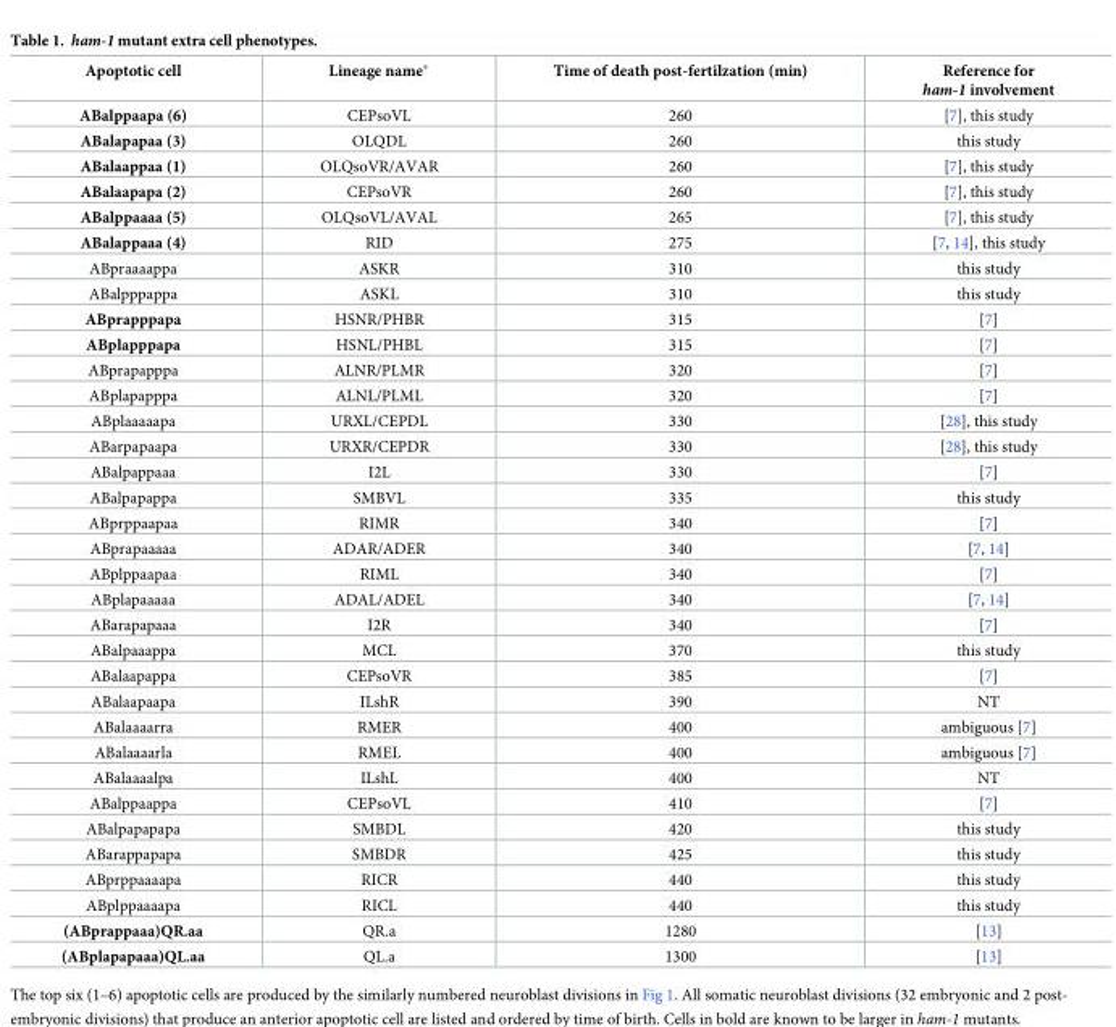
<table><thead><tr><td>Apoptotic cell</td><td>Lineage name*</td><td>Time of death post-fertilzation (min)</td><td>Reference for ham-1 involvement</td></tr></thead><tbody><tr><td>ABalppaapa (6)</td><td>CEPsoVL</td><td>260</td><td>[7], this study</td></tr><tr><td>ABalapapaa (3)</td><td>OLQDL</td><td>260</td><td>this study</td></tr><tr><td>ABalaappaa (1)</td><td>OLQsoVR/AVAR</td><td>260</td><td>[7], this study</td></tr><tr><td>ABalaapapa (2)</td><td>CEPsoVR</td><td>260</td><td>[7], this study</td></tr><tr><td>ABalppaaaa (5)</td><td>OLQsoVL/AVAL</td><td>265</td><td>[7], this study</td></tr><tr><td>ABalappaaa (4)</td><td>RID</td><td>275</td><td>[7, 14], this study</td></tr><tr><td>ABpraaaappa</td><td>ASKR</td><td>310</td><td>this study</td></tr><tr><td>ABalpppappa</td><td>ASKL</td><td>310</td><td>this study</td></tr><tr><td>ABprapppapa</td><td>HSNR/PHBR</td><td>315</td><td>[7]</td></tr><tr><td>ABplapppapa</td><td>HSNL/PHBL</td><td>315</td><td>[7]</td></tr><tr><td>ABprapapppa</td><td>ALNR/PLMR</td><td>320</td><td>[7]</td></tr><tr><td>ABplapapppa</td><td>ALNL/PLML</td><td>320</td><td>[7]</td></tr><tr><td>ABplaaaaapa</td><td>URXL/CEPDL</td><td>330</td><td>[28], this study</td></tr><tr><td>ABarpapaapa</td><td>URXR/CEPDR</td><td>330</td><td>[28], this study</td></tr><tr><td>ABalpappaaa</td><td>I2L</td><td>330</td><td>[7]</td></tr><tr><td>ABalpapappa</td><td>SMBVL</td><td>335</td><td>this study</td></tr><tr><td>ABprppaapaa</td><td>RIMR</td><td>340</td><td>[7]</td></tr><tr><td>ABprapaaaaa</td><td>ADAR/ADER</td><td>340</td><td>[7, 14]</td></tr><tr><td>ABplppaapaa</td><td>RIML</td><td>340</td><td>[7]</td></tr><tr><td>ABplapaaaaa</td><td>ADAL/ADEL</td><td>340</td><td>[7, 14]</td></tr><tr><td>ABarapapaaa</td><td>I2R</td><td>340</td><td>[7]</td></tr><tr><td>ABalpaaappa</td><td>MCL</td><td>370</td><td>this study</td></tr><tr><td>ABalaapappa</td><td>CEPsoVR</td><td>385</td><td>[7]</td></tr><tr><td>ABalaapaapa</td><td>ILshR</td><td>390</td><td>NT</td></tr><tr><td>ABalaaaarra</td><td>RMER</td><td>400</td><td>ambiguous [7]</td></tr><tr><td>ABalaaaarla</td><td>RMEL</td><td>400</td><td>ambiguous [7]</td></tr><tr><td>ABalaaaalpa</td><td>ILshL</td><td>400</td><td>NT</td></tr><tr><td>ABalppaappa</td><td>CEPsoVL</td><td>410</td><td>[7]</td></tr><tr><td>ABalpapapapa</td><td>SMBDL</td><td>420</td><td>this study</td></tr><tr><td>ABarappapapa</td><td>SMBDR</td><td>425</td><td>this study</td></tr><tr><td>ABprppaaaapa</td><td>RICR</td><td>440</td><td>this study</td></tr><tr><td>ABplppaaaapa</td><td>RICL</td><td>440</td><td>this study</td></tr><tr><td>(ABprappaaa)QR.aa</td><td>QR.a</td><td>1280</td><td>[13]</td></tr><tr><td>(ABplapapaaa)QL.aa</td><td>QL.a</td><td>1300</td><td>[13]</td></tr></tbody></table>